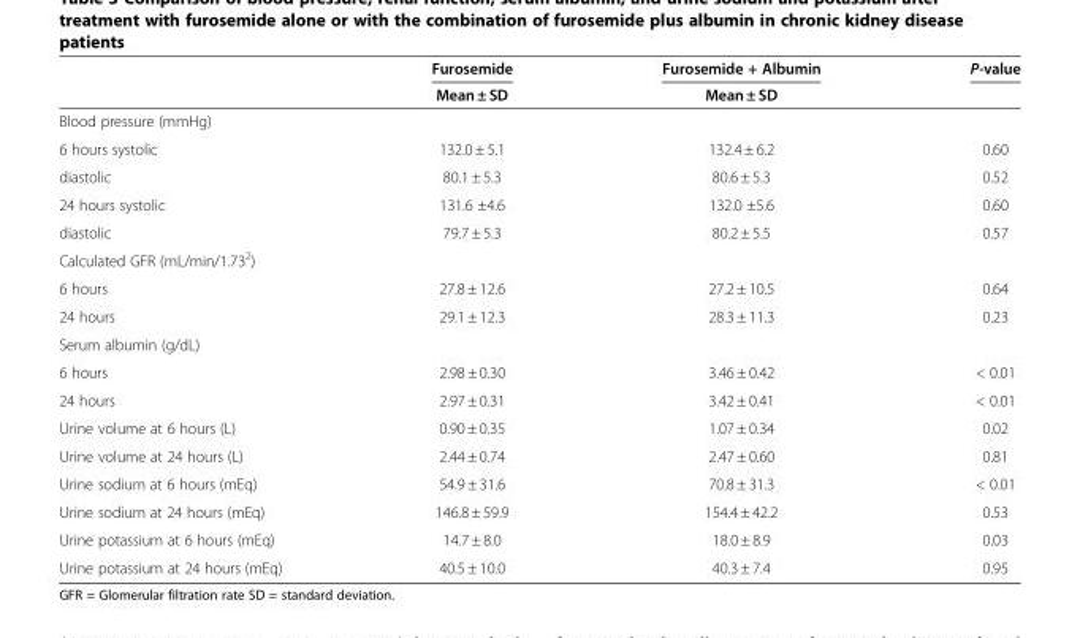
<table><thead><tr><td rowspan="2"></td><td rowspan="2">Furosemide Mean ± SD</td><td rowspan="2">Furosemide + Albumin Mean ± SD</td><td rowspan="2">P-value</td></tr><tr></tr></thead><tbody><tr><td colspan="4">Blood pressure (mmHg)</td></tr><tr><td>6 hours systolic</td><td>132.0 ± 5.1</td><td>132.4 ± 6.2</td><td>0.60</td></tr><tr><td>diastolic</td><td>80.1 ± 5.3</td><td>80.6 ± 5.3</td><td>0.52</td></tr><tr><td>24 hours systolic</td><td>131.6 ±4.6</td><td>132.0 ±5.6</td><td>0.60</td></tr><tr><td>diastolic</td><td>79.7 ± 5.3</td><td>80.2 ± 5.5</td><td>0.57</td></tr><tr><td colspan="4">Calculated GFR (mL/min/1.73<sup>2</sup>)</td></tr><tr><td>6 hours</td><td>27.8 ± 12.6</td><td>27.2 ± 10.5</td><td>0.64</td></tr><tr><td>24 hours</td><td>29.1 ± 12.3</td><td>28.3 ± 11.3</td><td>0.23</td></tr><tr><td colspan="4">Serum albumin (g/dL)</td></tr><tr><td>6 hours</td><td>2.98 ± 0.30</td><td>3.46 ± 0.42</td><td>&lt; 0.01</td></tr><tr><td>24 hours</td><td>2.97 ± 0.31</td><td>3.42 ± 0.41</td><td>&lt; 0.01</td></tr><tr><td>Urine volume at 6 hours (L)</td><td>0.90 ± 0.35</td><td>1.07 ± 0.34</td><td>0.02</td></tr><tr><td>Urine volume at 24 hours (L)</td><td>2.44 ± 0.74</td><td>2.47 ± 0.60</td><td>0.81</td></tr><tr><td>Urine sodium at 6 hours (mEq)</td><td>54.9 ± 31.6</td><td>70.8 ± 31.3</td><td>&lt; 0.01</td></tr><tr><td>Urine sodium at 24 hours (mEq)</td><td>146.8 ± 59.9</td><td>154.4 ± 42.2</td><td>0.53</td></tr><tr><td>Urine potassium at 6 hours (mEq)</td><td>14.7 ± 8.0</td><td>18.0 ± 8.9</td><td>0.03</td></tr><tr><td>Urine potassium at 24 hours (mEq)</td><td>40.5 ± 10.0</td><td>40.3 ± 7.4</td><td>0.95</td></tr></tbody></table>